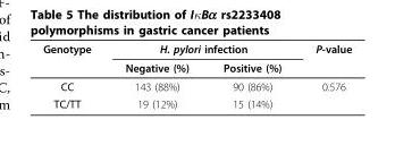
<table><thead><tr><td rowspan="2">Genotype</td><td colspan="2">H. pylori infection</td><td rowspan="2">P-value</td></tr><tr><td>Negative (%)</td><td>Positive (%)</td></tr></thead><tbody><tr><td>CC</td><td>143 (88%)</td><td>90 (86%)</td><td>0.576</td></tr><tr><td>TC/TT</td><td>19 (12%)</td><td>15 (14%)</td><td></td></tr></tbody></table>